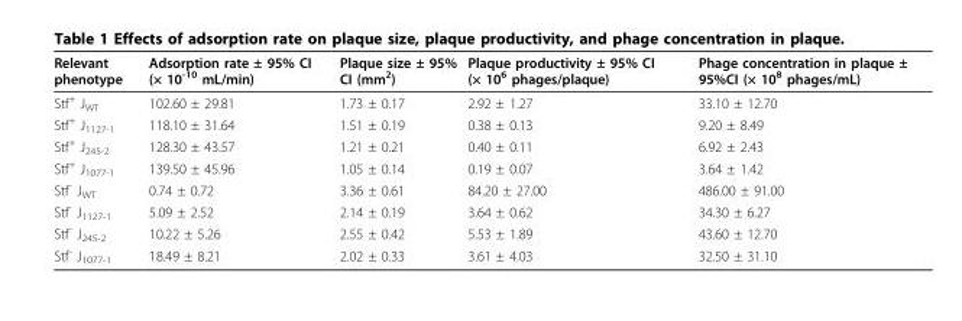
<table><thead><tr><td>Relevant phenotype</td><td>Adsorption rate ± 95% CI (× 10<sup>-10</sup> mL/min)</td><td>Plaque size ± 95% CI (mm<sup>2</sup>)</td><td>Plaque productivity ± 95% CI (× 10<sup>6</sup> phages/plaque)</td><td>Phage concentration in plaque ± 95%CI (× 10<sup>8</sup> phages/mL)</td></tr></thead><tbody><tr><td>Stf<sup>+</sup> J<sub>WT</sub></td><td>102.60 ± 29.81</td><td>1.73 ± 0.17</td><td>2.92 ± 1.27</td><td>33.10 ± 12.70</td></tr><tr><td>Stf<sup>+</sup> J<sub>1127-1</sub></td><td>118.10 ± 31.64</td><td>1.51 ± 0.19</td><td>0.38 ± 0.13</td><td>9.20 ± 8.49</td></tr><tr><td>Stf<sup>+</sup> J<sub>245-2</sub></td><td>128.30 ± 43.57</td><td>1.21 ± 0.21</td><td>0.40 ± 0.11</td><td>6.92 ± 2.43</td></tr><tr><td>Stf<sup>+</sup> J<sub>1077-1</sub></td><td>139.50 ± 45.96</td><td>1.05 ± 0.14</td><td>0.19 ± 0.07</td><td>3.64 ± 1.42</td></tr><tr><td>Stf<sup>-</sup> J<sub>WT</sub></td><td>0.74 ± 0.72</td><td>3.36 ± 0.61</td><td>84.20 ± 27.00</td><td>486.00 ± 91.00</td></tr><tr><td>Stf<sup>-</sup> J<sub>1127-1</sub></td><td>5.09 ± 2.52</td><td>2.14 ± 0.19</td><td>3.64 ± 0.62</td><td>34.30 ± 6.27</td></tr><tr><td>Stf<sup>-</sup> J<sub>245-2</sub></td><td>10.22 ± 5.26</td><td>2.55 ± 0.42</td><td>5.53 ± 1.89</td><td>43.60 ± 12.70</td></tr><tr><td>Stf<sup>-</sup> J<sub>1077-1</sub></td><td>18.49 ± 8.21</td><td>2.02 ± 0.33</td><td>3.61 ± 4.03</td><td>32.50 ± 31.10</td></tr></tbody></table>